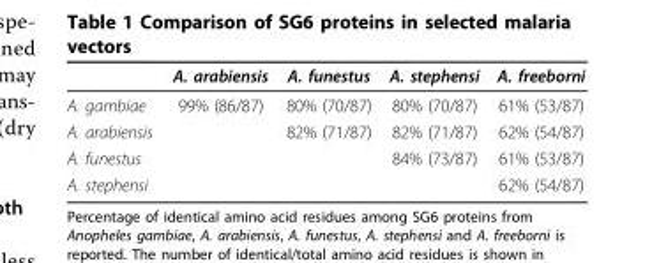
<table><thead><tr><td></td><td>A. arabiensis</td><td>A. funestus</td><td>A. stephensi</td><td>A. freeborni</td></tr></thead><tbody><tr><td>A. gambiae</td><td>99% (86/87)</td><td>80% (70/87)</td><td>80% (70/87)</td><td>61% (53/87)</td></tr><tr><td>A. arabiensis</td><td></td><td>82% (71/87)</td><td>82% (71/87)</td><td>62% (54/87)</td></tr><tr><td>A. funestus</td><td></td><td></td><td>84% (73/87)</td><td>61% (53/87)</td></tr><tr><td>A. stephensi</td><td></td><td></td><td></td><td>62% (54/87)</td></tr></tbody></table>